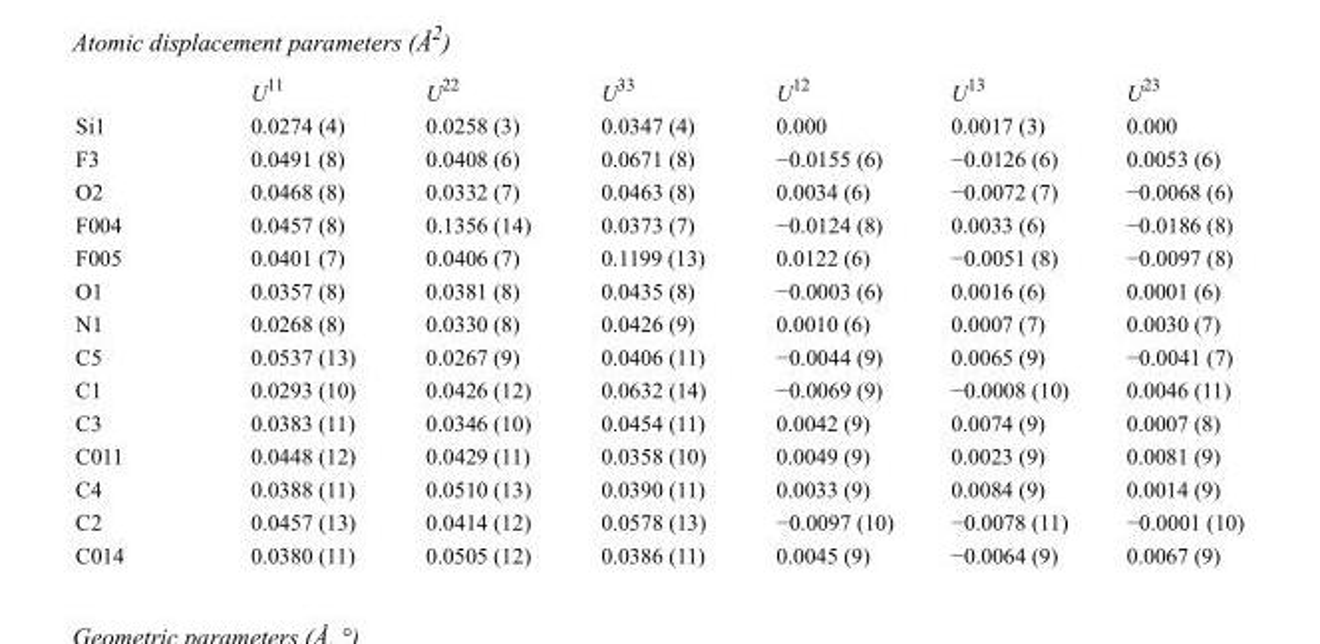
<table><thead><tr><td></td><td>U<sup>11</sup></td><td>U<sup>22</sup></td><td>U<sup>33</sup></td><td>U<sup>12</sup></td><td>U<sup>13</sup></td><td>U<sup>23</sup></td></tr></thead><tbody><tr><td>Si1</td><td>0.0274 (4)</td><td>0.0258 (3)</td><td>0.0347 (4)</td><td>0.000</td><td>0.0017 (3)</td><td>0.000</td></tr><tr><td>F3</td><td>0.0491 (8)</td><td>0.0408 (6)</td><td>0.0671 (8)</td><td>−0.0155 (6)</td><td>−0.0126 (6)</td><td>0.0053 (6)</td></tr><tr><td>O2</td><td>0.0468 (8)</td><td>0.0332 (7)</td><td>0.0463 (8)</td><td>0.0034 (6)</td><td>−0.0072 (7)</td><td>−0.0068 (6)</td></tr><tr><td>F004</td><td>0.0457 (8)</td><td>0.1356 (14)</td><td>0.0373 (7)</td><td>−0.0124 (8)</td><td>0.0033 (6)</td><td>−0.0186 (8)</td></tr><tr><td>F005</td><td>0.0401 (7)</td><td>0.0406 (7)</td><td>0.1199 (13)</td><td>0.0122 (6)</td><td>−0.0051 (8)</td><td>−0.0097 (8)</td></tr><tr><td>O1</td><td>0.0357 (8)</td><td>0.0381 (8)</td><td>0.0435 (8)</td><td>−0.0003 (6)</td><td>0.0016 (6)</td><td>0.0001 (6)</td></tr><tr><td>N1</td><td>0.0268 (8)</td><td>0.0330 (8)</td><td>0.0426 (9)</td><td>0.0010 (6)</td><td>0.0007 (7)</td><td>0.0030 (7)</td></tr><tr><td>C5</td><td>0.0537 (13)</td><td>0.0267 (9)</td><td>0.0406 (11)</td><td>−0.0044 (9)</td><td>0.0065 (9)</td><td>−0.0041 (7)</td></tr><tr><td>C1</td><td>0.0293 (10)</td><td>0.0426 (12)</td><td>0.0632 (14)</td><td>−0.0069 (9)</td><td>−0.0008 (10)</td><td>0.0046 (11)</td></tr><tr><td>C3</td><td>0.0383 (11)</td><td>0.0346 (10)</td><td>0.0454 (11)</td><td>0.0042 (9)</td><td>0.0074 (9)</td><td>0.0007 (8)</td></tr><tr><td>C011</td><td>0.0448 (12)</td><td>0.0429 (11)</td><td>0.0358 (10)</td><td>0.0049 (9)</td><td>0.0023 (9)</td><td>0.0081 (9)</td></tr><tr><td>C4</td><td>0.0388 (11)</td><td>0.0510 (13)</td><td>0.0390 (11)</td><td>0.0033 (9)</td><td>0.0084 (9)</td><td>0.0014 (9)</td></tr><tr><td>C2</td><td>0.0457 (13)</td><td>0.0414 (12)</td><td>0.0578 (13)</td><td>−0.0097 (10)</td><td>−0.0078 (11)</td><td>−0.0001 (10)</td></tr><tr><td>C014</td><td>0.0380 (11)</td><td>0.0505 (12)</td><td>0.0386 (11)</td><td>0.0045 (9)</td><td>−0.0064 (9)</td><td>0.0067 (9)</td></tr></tbody></table>